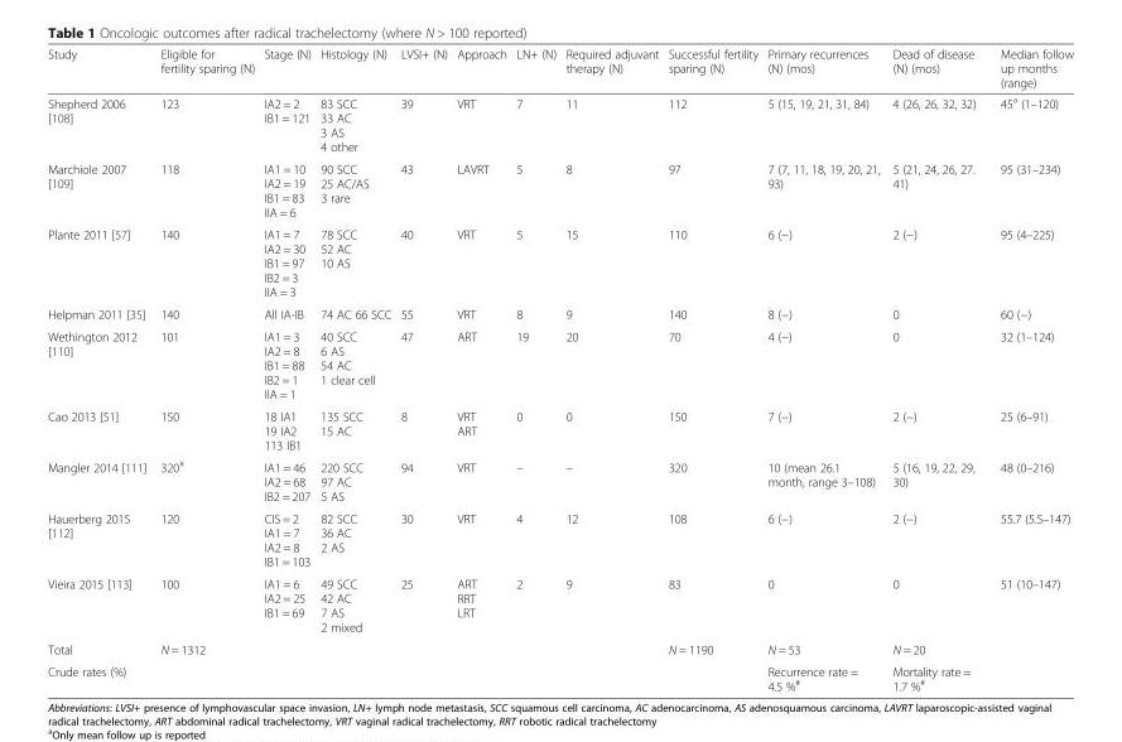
<table><thead><tr><td>Study</td><td>Eligible for fertility sparing (N)</td><td>Stage (N)</td><td>Histology (N)</td><td>LVSI+ (N)</td><td>Approach</td><td>LN+ (N)</td><td>Required adjuvant therapy (N)</td><td>Successful fertility sparing (N)</td><td>Primary recurrences (N) (mos)</td><td>Dead of disease (N) (mos)</td><td>Median follow up months (range)</td></tr></thead><tbody><tr><td>Shepherd 2006 [108]</td><td>123</td><td>IA2 = 2 IB1 = 121</td><td>83 SCC 33 AC 3 AS 4 other</td><td>39</td><td>VRT</td><td>7</td><td>11</td><td>112</td><td>5 (15, 19, 21, 31, 84)</td><td>4 (26, 26, 32, 32)</td><td>45<sup>a</sup> (1–120)</td></tr><tr><td>Marchiole 2007 [109]</td><td>118</td><td>IA1 = 10 IA2 = 19 IB1 = 83 IIA = 6</td><td>90 SCC 25 AC/AS 3 rare</td><td>43</td><td>LAVRT</td><td>5</td><td>8</td><td>97</td><td>7 (7, 11, 18, 19, 20, 21, 93)</td><td>5 (21, 24, 26, 27. 41)</td><td>95 (31–234)</td></tr><tr><td>Plante 2011 [57]</td><td>140</td><td>IA1 = 7 IA2 = 30 IB1 = 97 IB2 = 3 IIA = 3</td><td>78 SCC 52 AC 10 AS</td><td>40</td><td>VRT</td><td>5</td><td>15</td><td>110</td><td>6 (−)</td><td>2 (−)</td><td>95 (4–225)</td></tr><tr><td>Helpman 2011 [35]</td><td>140</td><td>All IA-IB</td><td>74 AC 66 SCC</td><td>55</td><td>VRT</td><td>8</td><td>9</td><td>140</td><td>8 (−)</td><td>0</td><td>60 (−)</td></tr><tr><td>Wethington 2012 [110]</td><td>101</td><td>IA1 = 3 IA2 = 8 IB1 = 88 IB2 = 1 IIA = 1</td><td>40 SCC 6 AS 54 AC 1 clear cell</td><td>47</td><td>ART</td><td>19</td><td>20</td><td>70</td><td>4 (−)</td><td>0</td><td>32 (1–124)</td></tr><tr><td>Cao 2013 [51]</td><td>150</td><td>18 IA1 19 IA2 113 IB1</td><td>135 SCC 15 AC</td><td>8</td><td>VRT ART</td><td>0</td><td>0</td><td>150</td><td>7 (−)</td><td>2 (−)</td><td>25 (6–91)</td></tr><tr><td>Mangler 2014 [111]</td><td>320<sup>¥</sup></td><td>IA1 = 46 IA2 = 68 IB2 = 207</td><td>220 SCC 97 AC 5 AS</td><td>94</td><td>VRT</td><td>–</td><td>–</td><td>320</td><td>10 (mean 26.1 month, range 3–108)</td><td>5 (16, 19, 22, 29, 30)</td><td>48 (0–216)</td></tr><tr><td>Hauerberg 2015 [112]</td><td>120</td><td>CIS = 2 IA1 = 7 IA2 = 8 IB1 = 103</td><td>82 SCC 36 AC 2 AS</td><td>30</td><td>VRT</td><td>4</td><td>12</td><td>108</td><td>6 (−)</td><td>2 (−)</td><td>55.7 (5.5–147)</td></tr><tr><td>Vieira 2015 [113]</td><td>100</td><td>IA1 = 6 IA2 = 25 IB1 = 69</td><td>49 SCC 42 AC 7 AS 2 mixed</td><td>25</td><td>ART RRT LRT</td><td>2</td><td>9</td><td>83</td><td>0</td><td>0</td><td>51 (10–147)</td></tr><tr><td>Total</td><td>N = 1312</td><td></td><td></td><td></td><td></td><td></td><td></td><td>N = 1190</td><td>N = 53</td><td>N = 20</td><td></td></tr><tr><td>Crude rates (%)</td><td></td><td></td><td></td><td></td><td></td><td></td><td></td><td></td><td>Recurrence rate = 4.5 %<sup>#</sup></td><td>Mortality rate = 1.7 %<sup>#</sup></td><td></td></tr></tbody></table>